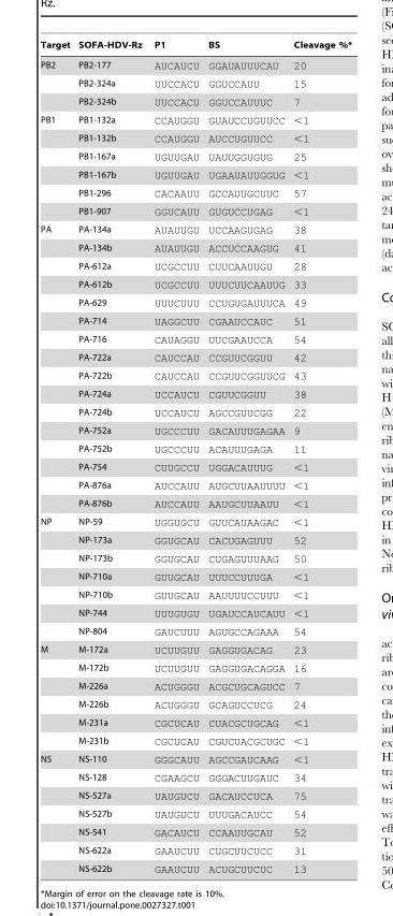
<table><thead><tr><td>Target</td><td>SOFA-HDV-Rz</td><td>P1</td><td>BS</td><td>Cleavage %*</td></tr></thead><tbody><tr><td rowspan="3">PB2</td><td>PB2-177</td><td>AUCAUCU</td><td>GGAUAUUUCAU</td><td>20</td></tr><tr><td>PB2-324a</td><td>UUCCACU</td><td>GGUCCAUU</td><td>15</td></tr><tr><td>PB2-324b</td><td>UUCCACU</td><td>GGUCCAUUUC</td><td>7</td></tr><tr><td rowspan="6">PB1</td><td>PB1-132a</td><td>CCAUGGU</td><td>GUAUCCUGUUCC</td><td>&lt;1</td></tr><tr><td>PB1-132b</td><td>CCAUGGU</td><td>AUCCUGUUCC</td><td>&lt;1</td></tr><tr><td>PB1-167a</td><td>UGUUGAU</td><td>UAUUGGUGUG</td><td>25</td></tr><tr><td>PB1-167b</td><td>UGUUGAU</td><td>UGAAUAUUGGUG</td><td>&lt;1</td></tr><tr><td>PB1-296</td><td>CACAAUU</td><td>GCCAUUGCUUC</td><td>57</td></tr><tr><td>PB1-907</td><td>GGUCAUU</td><td>GUGUCCUGAG</td><td>&lt;1</td></tr><tr><td rowspan="16">PA</td><td>PA-134a</td><td>AUAUUGU</td><td>UCCAAGUGAG</td><td>38</td></tr><tr><td>PA-134b</td><td>AUAUUGU</td><td>ACCUCCAAGUG</td><td>41</td></tr><tr><td>PA-612a</td><td>UCGCCUU</td><td>CUUCAAUUGU</td><td>28</td></tr><tr><td>PA-612b</td><td>UCGCCUU</td><td>UUUCUUCAAUUG</td><td>33</td></tr><tr><td>PA-629</td><td>UUUCUUU</td><td>CCUGUGAUUUCA</td><td>49</td></tr><tr><td>PA-714</td><td>UAGGCUU</td><td>CGAAUCCAUC</td><td>51</td></tr><tr><td>PA-716</td><td>CAUAGGU</td><td>UUCGAAUCCA</td><td>54</td></tr><tr><td>PA-722a</td><td>CAUCCAU</td><td>CCGUUCGGUU</td><td>42</td></tr><tr><td>PA-722b</td><td>CAUCCAU</td><td>CCGUUCGGUUCG</td><td>43</td></tr><tr><td>PA-724a</td><td>UCCAUCU</td><td>CGUUCGGUU</td><td>38</td></tr><tr><td>PA-724b</td><td>UCCAUCU</td><td>AGCCGUUCGG</td><td>22</td></tr><tr><td>PA-752a</td><td>UGCCCUU</td><td>GACAUUUGAGAA</td><td>9</td></tr><tr><td>PA-752b</td><td>UGCCCUU</td><td>ACAUUUGAGA</td><td>11</td></tr><tr><td>PA-754</td><td>CUUGCCU</td><td>UGGACAUUUG</td><td>&lt;1</td></tr><tr><td>PA-876a</td><td>AUCCAUU</td><td>AUGCUUAAUUUU</td><td>&lt;1</td></tr><tr><td>PA-876b</td><td>AUCCAUU</td><td>AAUGCUUAAUU</td><td>&lt;1</td></tr><tr><td rowspan="7">NP</td><td>NP-59</td><td>UGGUGCU</td><td>GUUCAUAAGAC</td><td>&lt;1</td></tr><tr><td>NP-173a</td><td>GGUGCAU</td><td>CACUGAGUUU</td><td>52</td></tr><tr><td>NP-173b</td><td>GGUGCAU</td><td>CUGAGUUUAAG</td><td>50</td></tr><tr><td>NP-710a</td><td>GUUGCAU</td><td>UUUCCUUUGA</td><td>&lt;1</td></tr><tr><td>NP-710b</td><td>GUUGCAU</td><td>AAUUUUCCUUU</td><td>&lt;1</td></tr><tr><td>NP-744</td><td>UUUGUGU</td><td>UGAUCCAUCAUU</td><td>&lt;1</td></tr><tr><td>NP-804</td><td>GAUCUUU</td><td>AGUGCCAGAAA</td><td>54</td></tr><tr><td rowspan="6">M</td><td>M-172a</td><td>UCUUGUU</td><td>GAGGUGACAG</td><td>23</td></tr><tr><td>M-172b</td><td>UCUUGUU</td><td>GAGGUGACAGGA</td><td>16</td></tr><tr><td>M-226a</td><td>ACUGGGU</td><td>ACGCUGCAGUCC</td><td>7</td></tr><tr><td>M-226b</td><td>ACUGGGU</td><td>GCAGUCCUCG</td><td>24</td></tr><tr><td>M-231a</td><td>CGCUCAU</td><td>CUACGCUGCAG</td><td>&lt;1</td></tr><tr><td>M-231b</td><td>CGCUCAU</td><td>CGUCUACGCUGC</td><td>&lt;1</td></tr><tr><td rowspan="7">NS</td><td>NS-110</td><td>GGGCAUU</td><td>AGCCGAUCAAG</td><td>&lt;1</td></tr><tr><td>NS-128</td><td>CGAAGCU</td><td>GGGACUUGAUC</td><td>34</td></tr><tr><td>NS-527a</td><td>UAUGUCU</td><td>GACAUCCUCA</td><td>75</td></tr><tr><td>NS-527b</td><td>UAUGUCU</td><td>UUUGACAUCC</td><td>54</td></tr><tr><td>NS-541</td><td>GACAUCU</td><td>CCAAUUGCAU</td><td>52</td></tr><tr><td>NS-622a</td><td>GAAUCUU</td><td>CUGCUUCUCC</td><td>31</td></tr><tr><td>NS-622b</td><td>GAAUCUU</td><td>ACUGCUUCUC</td><td>13</td></tr></tbody></table>